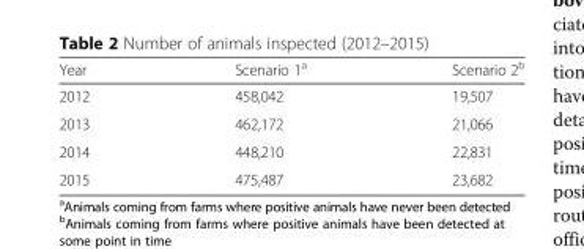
<table><thead><tr><td>Year</td><td>Scenario 1<sup>a</sup></td><td>Scenario 2<sup>b</sup></td></tr></thead><tbody><tr><td>2012</td><td>458,042</td><td>19,507</td></tr><tr><td>2013</td><td>462,172</td><td>21,066</td></tr><tr><td>2014</td><td>448,210</td><td>22,831</td></tr><tr><td>2015</td><td>475,487</td><td>23,682</td></tr></tbody></table>